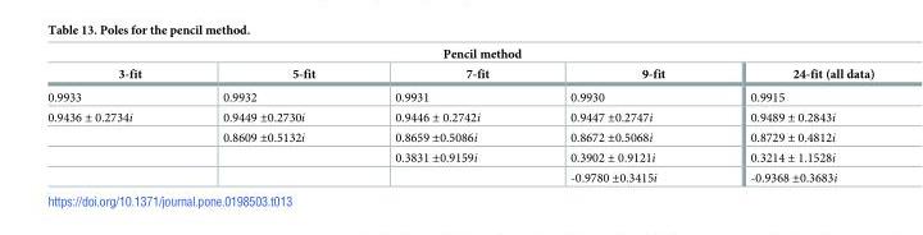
<table><thead><tr><td colspan="5">Pencil method</td></tr><tr><td>3-fit</td><td>5-fit</td><td>7-fit</td><td>9-fit</td><td>24-fit (all data)</td></tr></thead><tbody><tr><td>0.9933</td><td>0.9932</td><td>0.9931</td><td>0.9930</td><td>0.9915</td></tr><tr><td rowspan="4">0.9436 ± 0.2734i</td><td>0.9449 ±0.2730i</td><td>0.9446 ± 0.2742i</td><td>0.9447 ±0.2747i</td><td>0.9489 ± 0.2843i</td></tr><tr><td>0.8609 ±0.5132i</td><td>0.8659 ±0.5086i</td><td>0.8672 ±0.5068i</td><td>0.8729 ± 0.4812i</td></tr><tr><td></td><td>0.3831 ±0.9159i</td><td>0.3902 ± 0.9121i</td><td>0.3214 ± 1.1528i</td></tr><tr><td></td><td></td><td>-0.9780 ±0.3415i</td><td>-0.9368 ±0.3683i</td></tr></tbody></table>